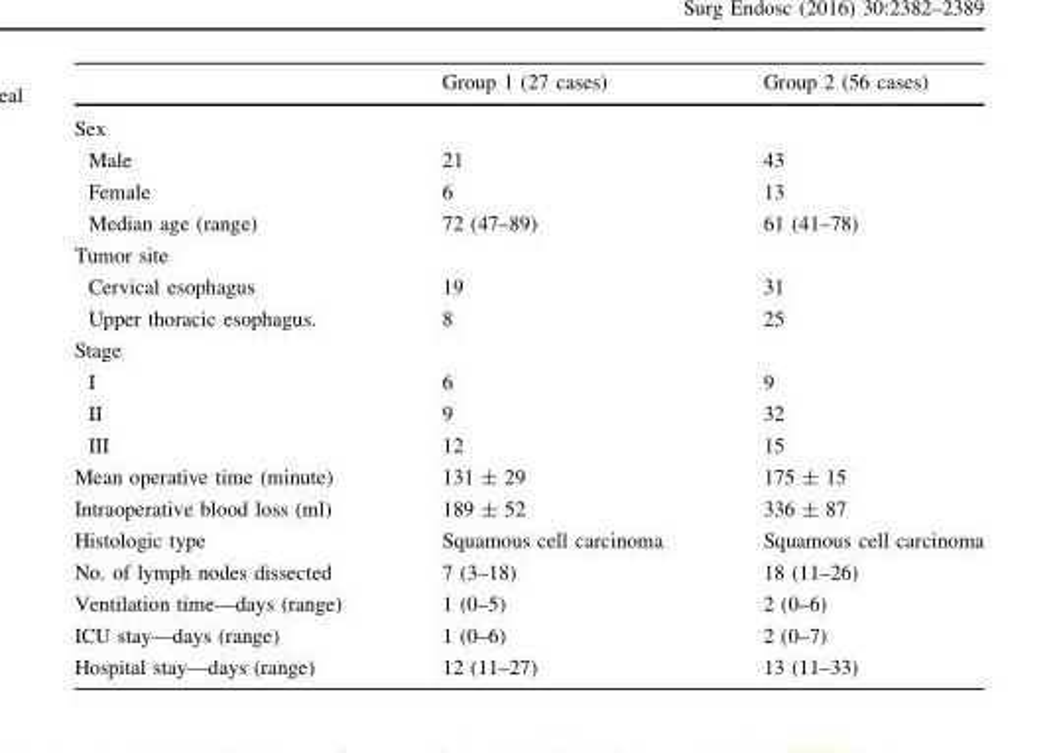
<table><thead><tr><td></td><td>Group 1 (27 cases)</td><td>Group 2 (56 cases)</td></tr></thead><tbody><tr><td colspan="3">Sex</td></tr><tr><td>Male</td><td>21</td><td>43</td></tr><tr><td>Female</td><td>6</td><td>13</td></tr><tr><td>Median age (range)</td><td>72 (47–89)</td><td>61 (41–78)</td></tr><tr><td colspan="3">Tumor site</td></tr><tr><td>Cervical esophagus</td><td>19</td><td>31</td></tr><tr><td>Upper thoracic esophagus.</td><td>8</td><td>25</td></tr><tr><td colspan="3">Stage</td></tr><tr><td>I</td><td>6</td><td>9</td></tr><tr><td>II</td><td>9</td><td>32</td></tr><tr><td>III</td><td>12</td><td>15</td></tr><tr><td>Mean operative time (minute)</td><td>131 ± 29</td><td>175 ± 15</td></tr><tr><td>Intraoperative blood loss (ml)</td><td>189 ± 52</td><td>336 ± 87</td></tr><tr><td>Histologic type</td><td>Squamous cell carcinoma</td><td>Squamous cell carcinoma</td></tr><tr><td>No. of lymph nodes dissected</td><td>7 (3–18)</td><td>18 (11–26)</td></tr><tr><td>Ventilation time—days (range)</td><td>1 (0–5)</td><td>2 (0–6)</td></tr><tr><td>ICU stay—days (range)</td><td>1 (0–6)</td><td>2 (0–7)</td></tr><tr><td>Hospital stay—days (range)</td><td>12 (11–27)</td><td>13 (11–33)</td></tr></tbody></table>